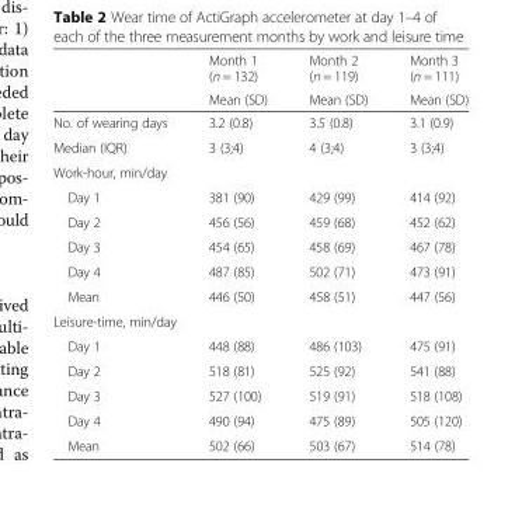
<table><thead><tr><td rowspan="2"></td><td rowspan="2">Month 1 (n = 132) Mean (SD)</td><td rowspan="2">Month 2 (n = 119) Mean (SD)</td><td rowspan="2">Month 3 (n = 111) Mean (SD)</td></tr><tr></tr></thead><tbody><tr><td>No. of wearing days</td><td>3.2 (0.8)</td><td>3.5 (0.8)</td><td>3.1 (0.9)</td></tr><tr><td>Median (IQR)</td><td>3 (3;4)</td><td>4 (3;4)</td><td>3 (3;4)</td></tr><tr><td colspan="4">Work-hour, min/day</td></tr><tr><td>Day 1</td><td>381 (90)</td><td>429 (99)</td><td>414 (92)</td></tr><tr><td>Day 2</td><td>456 (56)</td><td>459 (68)</td><td>452 (62)</td></tr><tr><td>Day 3</td><td>454 (65)</td><td>458 (69)</td><td>467 (78)</td></tr><tr><td>Day 4</td><td>487 (85)</td><td>502 (71)</td><td>473 (91)</td></tr><tr><td>Mean</td><td>446 (50)</td><td>458 (51)</td><td>447 (56)</td></tr><tr><td colspan="4">Leisure-time, min/day</td></tr><tr><td>Day 1</td><td>448 (88)</td><td>486 (103)</td><td>475 (91)</td></tr><tr><td>Day 2</td><td>518 (81)</td><td>525 (92)</td><td>541 (88)</td></tr><tr><td>Day 3</td><td>527 (100)</td><td>519 (91)</td><td>518 (108)</td></tr><tr><td>Day 4</td><td>490 (94)</td><td>475 (89)</td><td>505 (120)</td></tr><tr><td>Mean</td><td>502 (66)</td><td>503 (67)</td><td>514 (78)</td></tr></tbody></table>